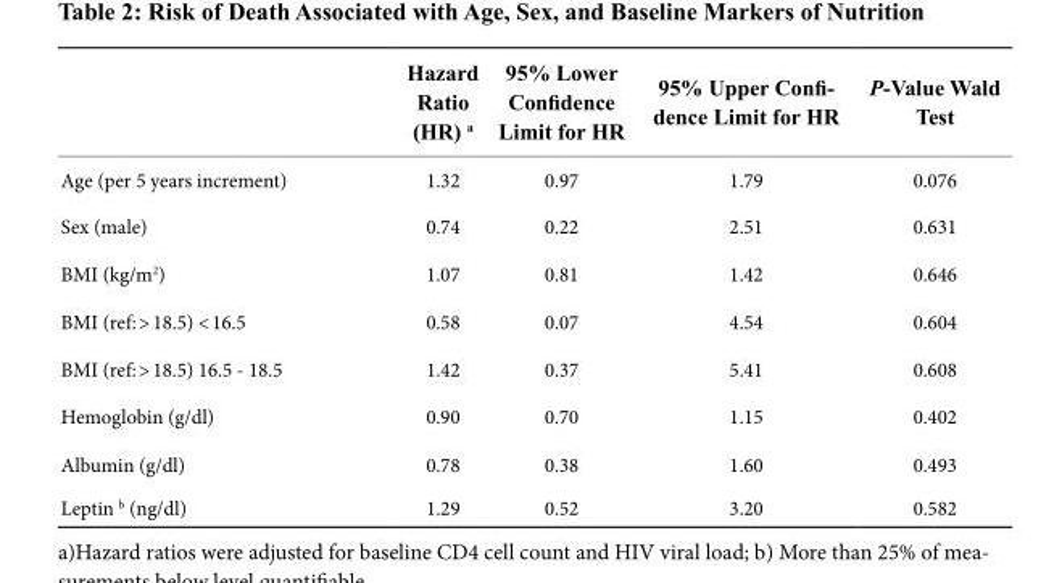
<table><thead><tr><td></td><td>Hazard Ratio (HR) <sup>a</sup></td><td>95% Lower Confidence Limit for HR</td><td>95% Upper Confi- dence Limit for HR</td><td>P-Value Wald Test</td></tr></thead><tbody><tr><td>Age (per 5 years increment)</td><td>1.32</td><td>0.97</td><td>1.79</td><td>0.076</td></tr><tr><td>Sex (male)</td><td>0.74</td><td>0.22</td><td>2.51</td><td>0.631</td></tr><tr><td>BMI (kg/m<sup>2</sup>)</td><td>1.07</td><td>0.81</td><td>1.42</td><td>0.646</td></tr><tr><td>BMI (ref: &gt; 18.5) &lt; 16.5</td><td>0.58</td><td>0.07</td><td>4.54</td><td>0.604</td></tr><tr><td>BMI (ref: &gt; 18.5) 16.5 - 18.5</td><td>1.42</td><td>0.37</td><td>5.41</td><td>0.608</td></tr><tr><td>Hemoglobin (g/dl)</td><td>0.90</td><td>0.70</td><td>1.15</td><td>0.402</td></tr><tr><td>Albumin (g/dl)</td><td>0.78</td><td>0.38</td><td>1.60</td><td>0.493</td></tr><tr><td>Leptin <sup>b</sup> (ng/dl)</td><td>1.29</td><td>0.52</td><td>3.20</td><td>0.582</td></tr></tbody></table>